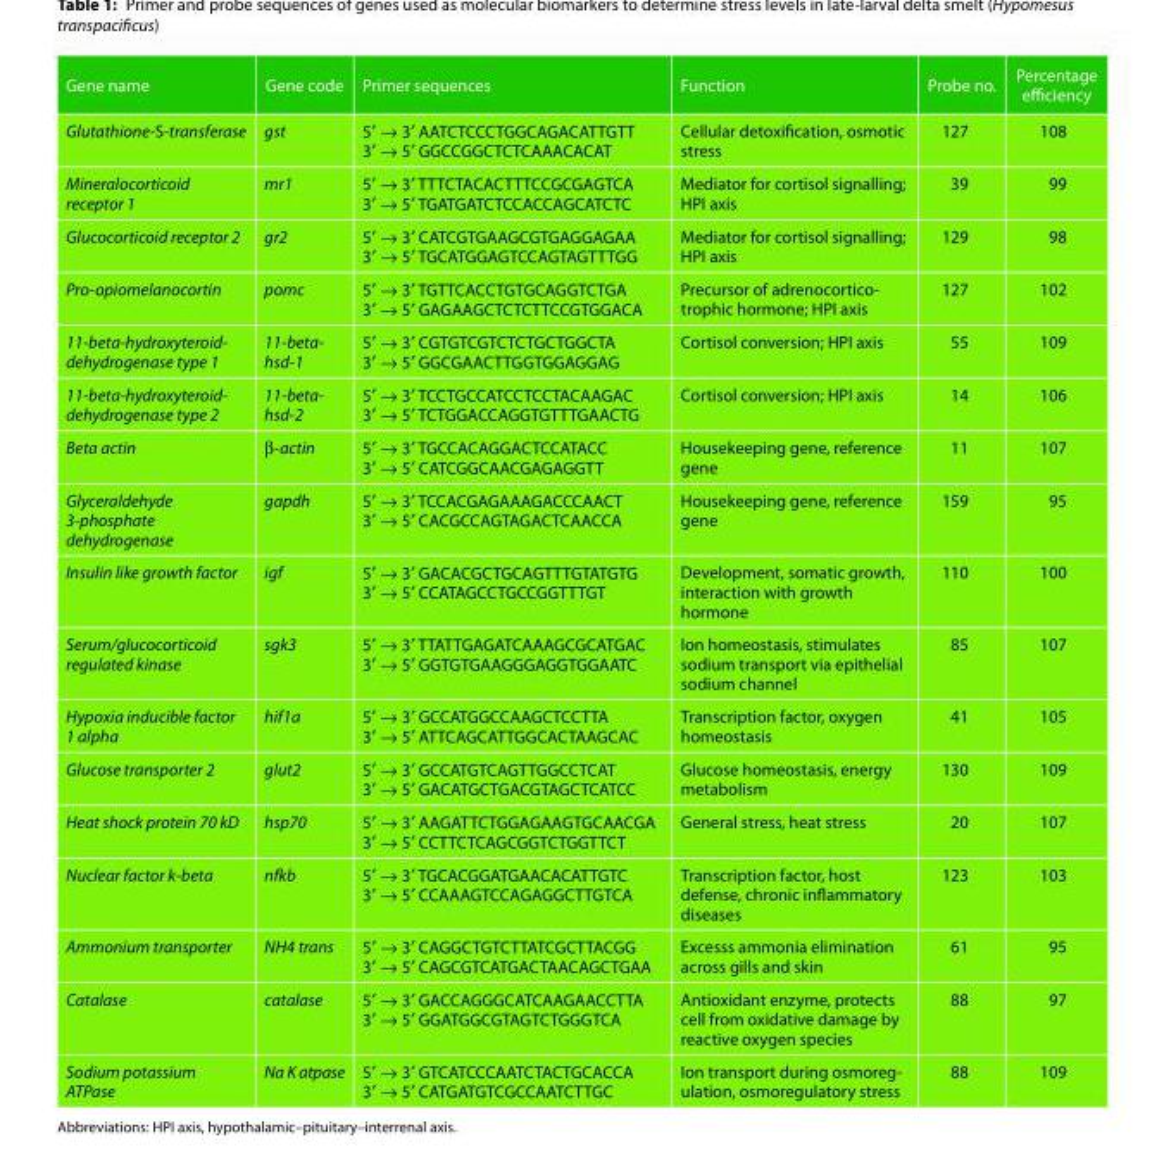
<table><thead><tr><td>Gene name</td><td>Gene code</td><td>Primer sequences</td><td>Function</td><td>Probe no.</td><td>Percentage efficiency</td></tr></thead><tbody><tr><td>Glutathione-S-transferase</td><td>gst</td><td>5′ → 3′ AATCTCCCTGGCAGACATTGTT 3′ → 5′ GGCCGGCTCTCAAACACAT</td><td>Cellular detoxification, osmotic stress</td><td>127</td><td>108</td></tr><tr><td>Mineralocorticoid receptor 1</td><td>mr1</td><td>5′ → 3′ TTTCTACACTTTCCGCGAGTCA 3′ → 5′ TGATGATCTCCACCAGCATCTC</td><td>Mediator for cortisol signalling; HPI axis</td><td>39</td><td>99</td></tr><tr><td>Glucocorticoid receptor 2</td><td>gr2</td><td>5′ → 3′ CATCGTGAAGCGTGAGGAGAA 3′ → 5′ TGCATGGAGTCCAGTAGTTTGG</td><td>Mediator for cortisol signalling; HPI axis</td><td>129</td><td>98</td></tr><tr><td>Pro-opiomelanocortin</td><td>pomc</td><td>5′ → 3′ TGTTCACCTGTGCAGGTCTGA 3′ → 5′ GAGAAGCTCTCTTCCGTGGACA</td><td>Precursor of adrenocortico- trophic hormone; HPI axis</td><td>127</td><td>102</td></tr><tr><td>11-beta-hydroxyteroid- dehydrogenase type 1</td><td>11-beta- hsd-1</td><td>5′ → 3′ CGTGTCGTCTCTGCTGGCTA 3′ → 5′ GGCGAACTTGGTGGAGGAG</td><td>Cortisol conversion; HPI axis</td><td>55</td><td>109</td></tr><tr><td>11-beta-hydroxyteroid- dehydrogenase type 2</td><td>11-beta- hsd-2</td><td>5′ → 3′ TCCTGCCATCCTCCTACAAGAC 3′ → 5′ TCTGGACCAGGTGTTTGAACTG</td><td>Cortisol conversion; HPI axis</td><td>14</td><td>106</td></tr><tr><td>Beta actin</td><td>β-actin</td><td>5′ → 3′ TGCCACAGGACTCCATACC 3′ → 5′ CATCGGCAACGAGAGGTT</td><td>Housekeeping gene, reference gene</td><td>11</td><td>107</td></tr><tr><td>Glyceraldehyde 3-phosphate dehydrogenase</td><td>gapdh</td><td>5′ → 3′ TCCACGAGAAAGACCCAACT 3′ → 5′ CACGCCAGTAGACTCAACCA</td><td>Housekeeping gene, reference gene</td><td>159</td><td>95</td></tr><tr><td>Insulin like growth factor</td><td>igf</td><td>5′ → 3′ GACACGCTGCAGTTTGTATGTG 3′ → 5′ CCATAGCCTGCCGGTTTGT</td><td>Development, somatic growth, interaction with growth hormone</td><td>110</td><td>100</td></tr><tr><td>Serum/glucocorticoid regulated kinase</td><td>sgk3</td><td>5′ → 3′ TTATTGAGATCAAAGCGCATGAC 3′ → 5′ GGTGTGAAGGGAGGTGGAATC</td><td>Ion homeostasis, stimulates sodium transport via epithelial sodium channel</td><td>85</td><td>107</td></tr><tr><td>Hypoxia inducible factor 1 alpha</td><td>hif1a</td><td>5′ → 3′ GCCATGGCCAAGCTCCTTA 3′ → 5′ ATTCAGCATTGGCACTAAGCAC</td><td>Transcription factor, oxygen homeostasis</td><td>41</td><td>105</td></tr><tr><td>Glucose transporter 2</td><td>glut2</td><td>5′ → 3′ GCCATGTCAGTTGGCCTCAT 3′ → 5′ GACATGCTGACGTAGCTCATCC</td><td>Glucose homeostasis, energy metabolism</td><td>130</td><td>109</td></tr><tr><td>Heat shock protein 70 kD</td><td>hsp70</td><td>5′ → 3′ AAGATTCTGGAGAAGTGCAACGA 3′ → 5′ CCTTCTCAGCGGTCTGGTTCT</td><td>General stress, heat stress</td><td>20</td><td>107</td></tr><tr><td>Nuclear factor k-beta</td><td>nfkb</td><td>5′ → 3′ TGCACGGATGAACACATTGTC 3′ → 5′ CCAAAGTCCAGAGGCTTGTCA</td><td>Transcription factor, host defense, chronic inflammatory diseases</td><td>123</td><td>103</td></tr><tr><td>Ammonium transporter</td><td>NH4 trans</td><td>5′ → 3′ CAGGCTGTCTTATCGCTTACGG 3′ → 5′ CAGCGTCATGACTAACAGCTGAA</td><td>Excesss ammonia elimination across gills and skin</td><td>61</td><td>95</td></tr><tr><td>Catalase</td><td>catalase</td><td>5′ → 3′ GACCAGGGCATCAAGAACCTTA 3′ → 5′ GGATGGCGTAGTCTGGGTCA</td><td>Antioxidant enzyme, protects cell from oxidative damage by reactive oxygen species</td><td>88</td><td>97</td></tr><tr><td>Sodium potassium ATPase</td><td>Na K atpase</td><td>5′ → 3′ GTCATCCCAATCTACTGCACCA 3′ → 5′ CATGATGTCGCCAATCTTGC</td><td>Ion transport during osmoreg- ulation, osmoregulatory stress</td><td>88</td><td>109</td></tr></tbody></table>